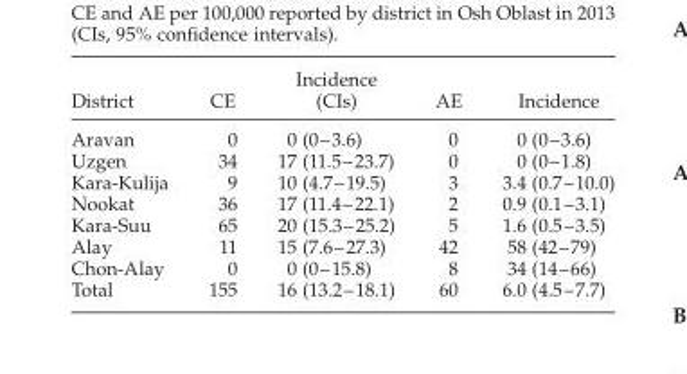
<table><thead><tr><td>District</td><td>CE</td><td>Incidence (CIs)</td><td>AE</td><td>Incidence</td></tr></thead><tbody><tr><td>Aravan</td><td>0</td><td>0 (0–3.6)</td><td>0</td><td>0 (0–3.6)</td></tr><tr><td>Uzgen</td><td>34</td><td>17 (11.5–23.7)</td><td>0</td><td>0 (0–1.8)</td></tr><tr><td>Kara-Kulija</td><td>9</td><td>10 (4.7–19.5)</td><td>3</td><td>3.4 (0.7–10.0)</td></tr><tr><td>Nookat</td><td>36</td><td>17 (11.4–22.1)</td><td>2</td><td>0.9 (0.1–3.1)</td></tr><tr><td>Kara-Suu</td><td>65</td><td>20 (15.3–25.2)</td><td>5</td><td>1.6 (0.5–3.5)</td></tr><tr><td>Alay</td><td>11</td><td>15 (7.6–27.3)</td><td>42</td><td>58 (42–79)</td></tr><tr><td>Chon-Alay</td><td>0</td><td>0 (0–15.8)</td><td>8</td><td>34 (14–66)</td></tr><tr><td>Total</td><td>155</td><td>16 (13.2–18.1)</td><td>60</td><td>6.0 (4.5–7.7)</td></tr></tbody></table>